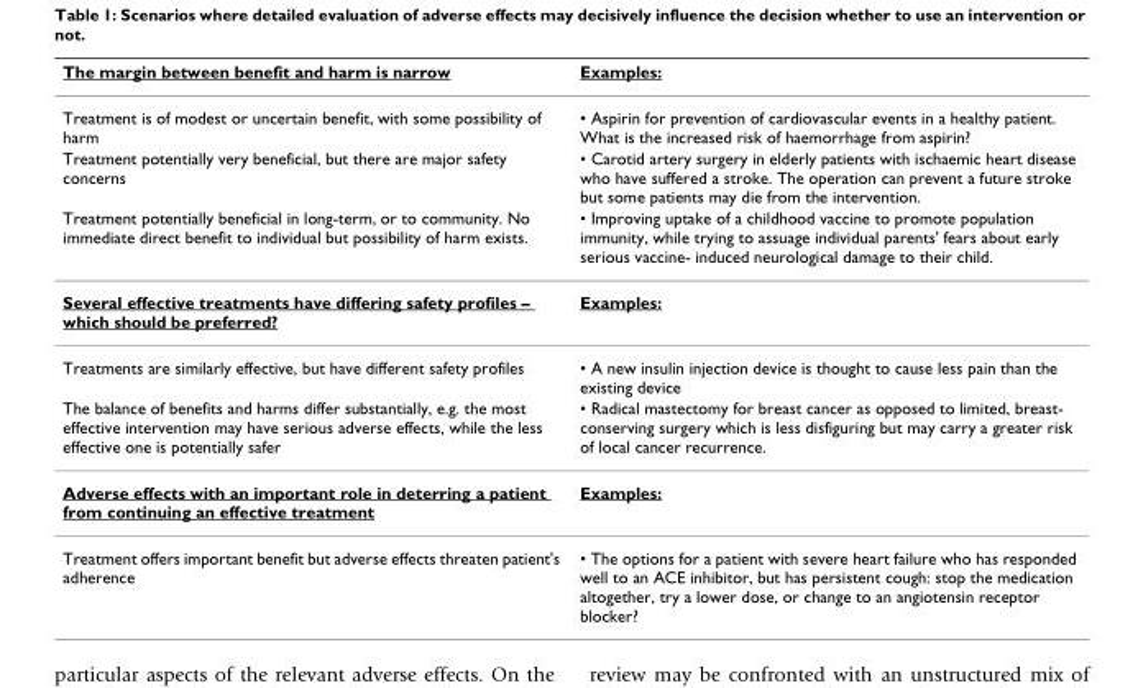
<table><thead><tr><td>The margin between benefit and harm is narrow</td><td>Examples:</td></tr></thead><tbody><tr><td>Treatment is of modest or uncertain benefit, with some possibility of harm</td><td>• Aspirin for prevention of cardiovascular events in a healthy patient. What is the increased risk of haemorrhage from aspirin?</td></tr><tr><td>Treatment potentially very beneficial, but there are major safety concerns</td><td>• Carotid artery surgery in elderly patients with ischaemic heart disease who have suffered a stroke. The operation can prevent a future stroke but some patients may die from the intervention.</td></tr><tr><td>Treatment potentially beneficial in long-term, or to community. No immediate direct benefit to individual but possibility of harm exists.</td><td>• Improving uptake of a childhood vaccine to promote population immunity, while trying to assuage individual parents&#x27; fears about early serious vaccine- induced neurological damage to their child.</td></tr><tr><td>Several effective treatments have differing safety profiles – which should be preferred?</td><td>Examples:</td></tr><tr><td>Treatments are similarly effective, but have different safety profiles</td><td>• A new insulin injection device is thought to cause less pain than the existing device</td></tr><tr><td>The balance of benefits and harms differ substantially, e.g. the most effective intervention may have serious adverse effects, while the less effective one is potentially safer</td><td>• Radical mastectomy for breast cancer as opposed to limited, breast- conserving surgery which is less disfiguring but may carry a greater risk of local cancer recurrence.</td></tr><tr><td>Adverse effects with an important role in deterring a patient from continuing an effective treatment</td><td>Examples:</td></tr><tr><td>Treatment offers important benefit but adverse effects threaten patient&#x27;s adherence</td><td>• The options for a patient with severe heart failure who has responded well to an ACE inhibitor, but has persistent cough: stop the medication altogether, try a lower dose, or change to an angiotensin receptor blocker?</td></tr></tbody></table>